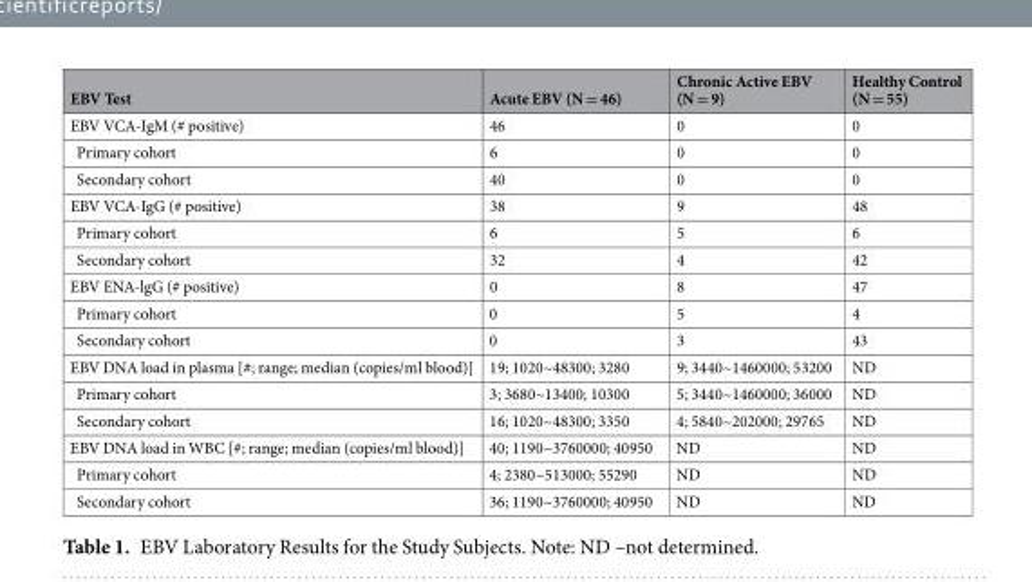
<table><thead><tr><td>EBV Test</td><td>Acute EBV (N = 46)</td><td>Chronic Active EBV (N = 9)</td><td>Healthy Control (N = 55)</td></tr></thead><tbody><tr><td>EBV VCA-IgM (# positive)</td><td>46</td><td>0</td><td>0</td></tr><tr><td>Primary cohort</td><td>6</td><td>0</td><td>0</td></tr><tr><td>Secondary cohort</td><td>40</td><td>0</td><td>0</td></tr><tr><td>EBV VCA-IgG (# positive)</td><td>38</td><td>9</td><td>48</td></tr><tr><td>Primary cohort</td><td>6</td><td>5</td><td>6</td></tr><tr><td>Secondary cohort</td><td>32</td><td>4</td><td>42</td></tr><tr><td>EBV ENA-lgG (# positive)</td><td>0</td><td>8</td><td>47</td></tr><tr><td>Primary cohort</td><td>0</td><td>5</td><td>4</td></tr><tr><td>Secondary cohort</td><td>0</td><td>3</td><td>43</td></tr><tr><td>EBV DNA load in plasma [#; range; median (copies/ml blood)]</td><td>19; 1020~48300; 3280</td><td>9; 3440~1460000; 53200</td><td>ND</td></tr><tr><td>Primary cohort</td><td>3; 3680~13400; 10300</td><td>5; 3440~1460000; 36000</td><td>ND</td></tr><tr><td>Secondary cohort</td><td>16; 1020~48300; 3350</td><td>4; 5840~202000; 29765</td><td>ND</td></tr><tr><td>EBV DNA load in WBC [#; range; median (copies/ml blood)]</td><td>40; 1190~3760000; 40950</td><td>ND</td><td>ND</td></tr><tr><td>Primary cohort</td><td>4; 2380~513000; 55290</td><td>ND</td><td>ND</td></tr><tr><td>Secondary cohort</td><td>36; 1190~3760000; 40950</td><td>ND</td><td>ND</td></tr></tbody></table>